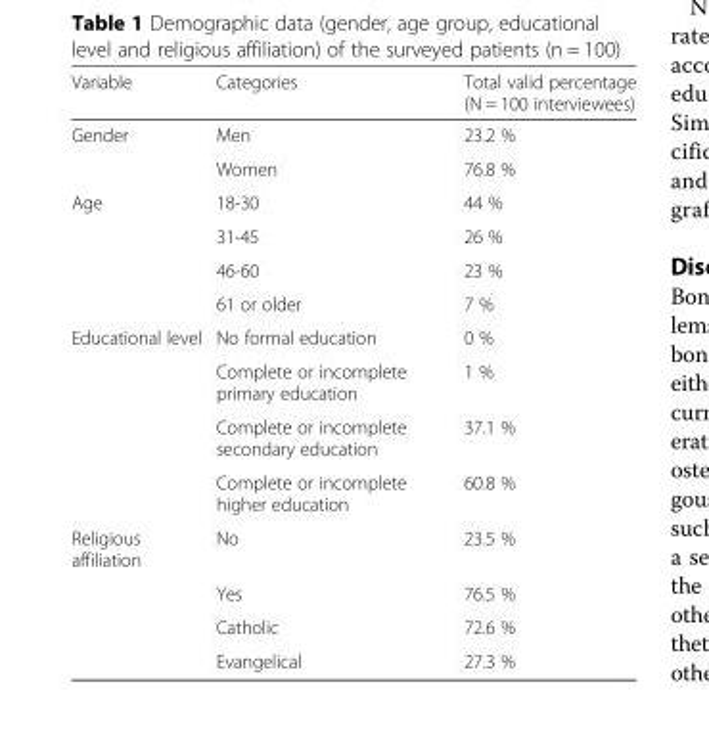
<table><thead><tr><td>Variable</td><td>Categories</td><td>Total valid percentage (N = 100 interviewees)</td></tr></thead><tbody><tr><td rowspan="2">Gender</td><td>Men</td><td>23.2 %</td></tr><tr><td>Women</td><td>76.8 %</td></tr><tr><td rowspan="4">Age</td><td>18-30</td><td>44 %</td></tr><tr><td>31-45</td><td>26 %</td></tr><tr><td>46-60</td><td>23 %</td></tr><tr><td>61 or older</td><td>7 %</td></tr><tr><td rowspan="4">Educational level</td><td>No formal education</td><td>0 %</td></tr><tr><td>Complete or incomplete primary education</td><td>1 %</td></tr><tr><td>Complete or incomplete secondary education</td><td>37.1 %</td></tr><tr><td>Complete or incomplete higher education</td><td>60.8 %</td></tr><tr><td rowspan="4">Religious affiliation</td><td>No</td><td>23.5 %</td></tr><tr><td>Yes</td><td>76.5 %</td></tr><tr><td>Catholic</td><td>72.6 %</td></tr><tr><td>Evangelical</td><td>27.3 %</td></tr></tbody></table>